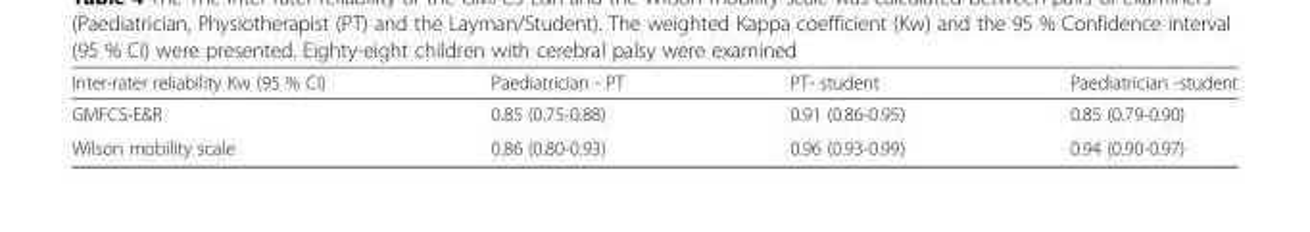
<table><thead><tr><td>Inter-rater reliability Kw (95 % CI)</td><td>Paediatrician - PT</td><td>PT- student</td><td>Paediatrician -student</td></tr></thead><tbody><tr><td>GMFCS-E&amp;R</td><td>0.85 (0.75-0.88)</td><td>0.91 (0.86-0.95)</td><td>0.85 (0.79-0.90)</td></tr><tr><td>Wilson mobility scale</td><td>0.86 (0.80-0.93)</td><td>0.96 (0.93-0.99)</td><td>0.94 (0.90-0.97)</td></tr></tbody></table>